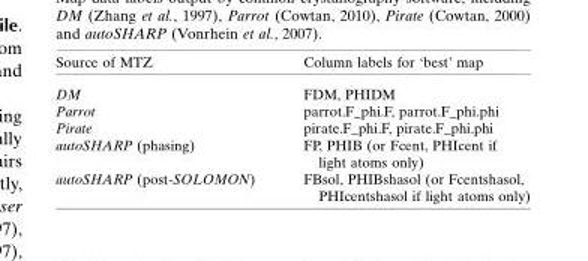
<table><thead><tr><td>Source of MTZ</td><td>Column labels for ‘best’ map</td></tr></thead><tbody><tr><td>DM</td><td>FDM, PHIDM</td></tr><tr><td>Parrot</td><td>parrot.F_phi.F, parrot.F_phi.phi</td></tr><tr><td>Pirate</td><td>pirate.F_phi.F, pirate.F_phi.phi</td></tr><tr><td>autoSHARP (phasing)</td><td>FP, PHIB (or Fcent, PHIcent if light atoms only)</td></tr><tr><td>autoSHARP (post-SOLOMON)</td><td>FBsol, PHIBshasol (or Fcentshasol, PHIcentshasol if light atoms only)</td></tr></tbody></table>